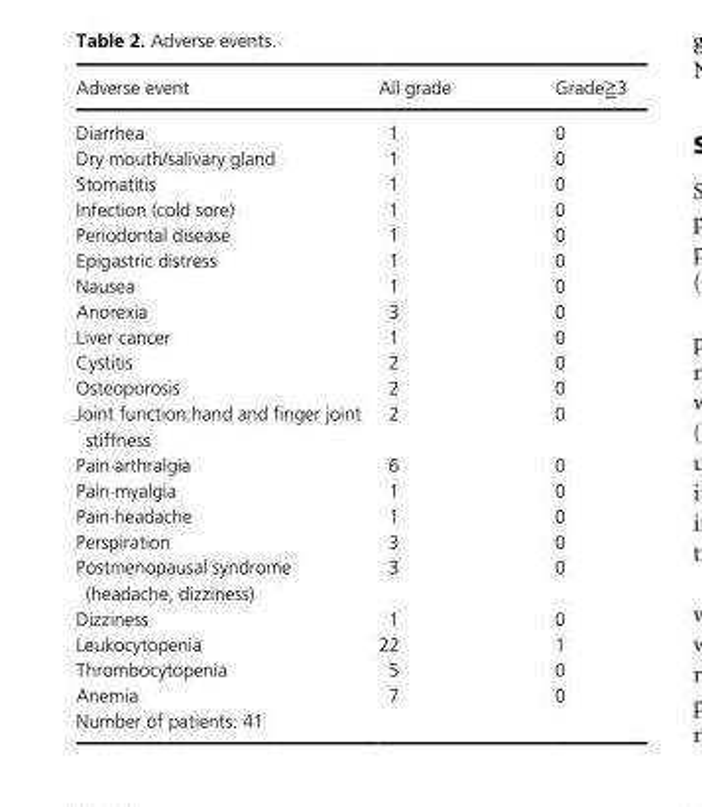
<table><thead><tr><td>Adverse event</td><td>All grade</td><td>Grade≧3</td></tr></thead><tbody><tr><td>Diarrhea</td><td>1</td><td>0</td></tr><tr><td>Dry mouth/salivary gland</td><td>1</td><td>0</td></tr><tr><td>Stomatitis</td><td>1</td><td>0</td></tr><tr><td>Infection (cold sore)</td><td>1</td><td>0</td></tr><tr><td>Periodontal disease</td><td>1</td><td>0</td></tr><tr><td>Epigastric distress</td><td>1</td><td>0</td></tr><tr><td>Nausea</td><td>1</td><td>0</td></tr><tr><td>Anorexia</td><td>3</td><td>0</td></tr><tr><td>Liver cancer</td><td>1</td><td>0</td></tr><tr><td>Cystitis</td><td>2</td><td>0</td></tr><tr><td>Osteoporosis</td><td>2</td><td>0</td></tr><tr><td>Joint function:hand and finger joint stiffness</td><td>2</td><td>0</td></tr><tr><td>Pain⋅arthralgia</td><td>6</td><td>0</td></tr><tr><td>Pain⋅myalgia</td><td>1</td><td>0</td></tr><tr><td>Pain⋅headache</td><td>1</td><td>0</td></tr><tr><td>Perspiration</td><td>3</td><td>0</td></tr><tr><td>Postmenopausal syndrome (headache, dizziness)</td><td>3</td><td>0</td></tr><tr><td>Dizziness</td><td>1</td><td>0</td></tr><tr><td>Leukocytopenia</td><td>22</td><td>1</td></tr><tr><td>Thrombocytopenia</td><td>5</td><td>0</td></tr><tr><td>Anemia</td><td>7</td><td>0</td></tr><tr><td>Number of patients: 41</td><td></td><td></td></tr></tbody></table>